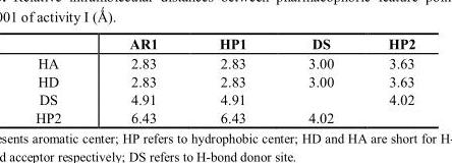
<table><thead><tr><td></td><td>AR1</td><td>HP1</td><td>DS</td><td>HP2</td></tr></thead><tbody><tr><td>HA</td><td>2.83</td><td>2.83</td><td>3.00</td><td>3.63</td></tr><tr><td>HD</td><td>2.83</td><td>2.83</td><td>3.00</td><td>3.63</td></tr><tr><td>DS</td><td>4.91</td><td>4.91</td><td></td><td>4.02</td></tr><tr><td>HP2</td><td>6.43</td><td>6.43</td><td>4.02</td><td></td></tr></tbody></table>